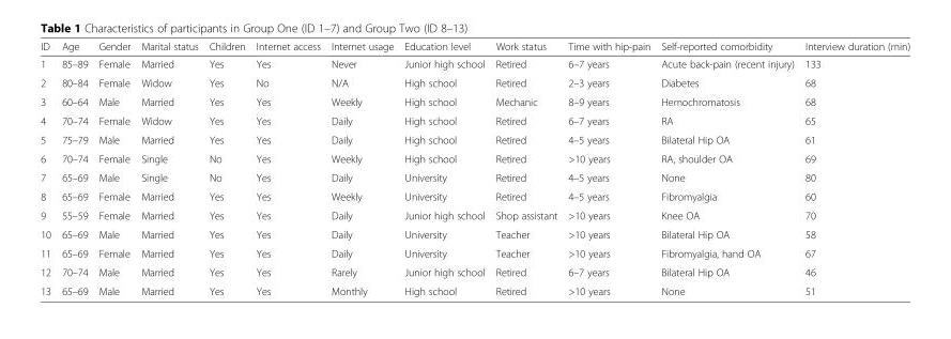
<table><thead><tr><td>ID</td><td>Age</td><td>Gender</td><td>Marital status</td><td>Children</td><td>Internet access</td><td>Internet usage</td><td>Education level</td><td>Work status</td><td>Time with hip-pain</td><td>Self-reported comorbidity</td><td>Interview duration (min)</td></tr></thead><tbody><tr><td>1</td><td>85–89</td><td>Female</td><td>Married</td><td>Yes</td><td>Yes</td><td>Never</td><td>Junior high school</td><td>Retired</td><td>6–7 years</td><td>Acute back-pain (recent injury)</td><td>133</td></tr><tr><td>2</td><td>80–84</td><td>Female</td><td>Widow</td><td>Yes</td><td>No</td><td>N/A</td><td>High school</td><td>Retired</td><td>2–3 years</td><td>Diabetes</td><td>68</td></tr><tr><td>3</td><td>60–64</td><td>Male</td><td>Married</td><td>Yes</td><td>Yes</td><td>Weekly</td><td>High school</td><td>Mechanic</td><td>8–9 years</td><td>Hemochromatosis</td><td>68</td></tr><tr><td>4</td><td>70–74</td><td>Female</td><td>Widow</td><td>Yes</td><td>Yes</td><td>Daily</td><td>High school</td><td>Retired</td><td>6–7 years</td><td>RA</td><td>65</td></tr><tr><td>5</td><td>75–79</td><td>Male</td><td>Married</td><td>Yes</td><td>Yes</td><td>Daily</td><td>High school</td><td>Retired</td><td>4–5 years</td><td>Bilateral Hip OA</td><td>61</td></tr><tr><td>6</td><td>70–74</td><td>Female</td><td>Single</td><td>No</td><td>Yes</td><td>Weekly</td><td>High school</td><td>Retired</td><td>&gt;10 years</td><td>RA, shoulder OA</td><td>69</td></tr><tr><td>7</td><td>65–69</td><td>Male</td><td>Single</td><td>No</td><td>Yes</td><td>Daily</td><td>University</td><td>Retired</td><td>4–5 years</td><td>None</td><td>80</td></tr><tr><td>8</td><td>65–69</td><td>Female</td><td>Married</td><td>Yes</td><td>Yes</td><td>Weekly</td><td>University</td><td>Retired</td><td>4–5 years</td><td>Fibromyalgia</td><td>60</td></tr><tr><td>9</td><td>55–59</td><td>Female</td><td>Married</td><td>Yes</td><td>Yes</td><td>Daily</td><td>Junior high school</td><td>Shop assistant</td><td>&gt;10 years</td><td>Knee OA</td><td>70</td></tr><tr><td>10</td><td>65–69</td><td>Male</td><td>Married</td><td>Yes</td><td>Yes</td><td>Daily</td><td>University</td><td>Teacher</td><td>&gt;10 years</td><td>Bilateral Hip OA</td><td>58</td></tr><tr><td>11</td><td>65–69</td><td>Female</td><td>Married</td><td>Yes</td><td>Yes</td><td>Daily</td><td>University</td><td>Teacher</td><td>&gt;10 years</td><td>Fibromyalgia, hand OA</td><td>67</td></tr><tr><td>12</td><td>70–74</td><td>Male</td><td>Married</td><td>Yes</td><td>Yes</td><td>Rarely</td><td>Junior high school</td><td>Retired</td><td>6–7 years</td><td>Bilateral Hip OA</td><td>46</td></tr><tr><td>13</td><td>65–69</td><td>Male</td><td>Married</td><td>Yes</td><td>Yes</td><td>Monthly</td><td>High school</td><td>Retired</td><td>&gt;10 years</td><td>None</td><td>51</td></tr></tbody></table>